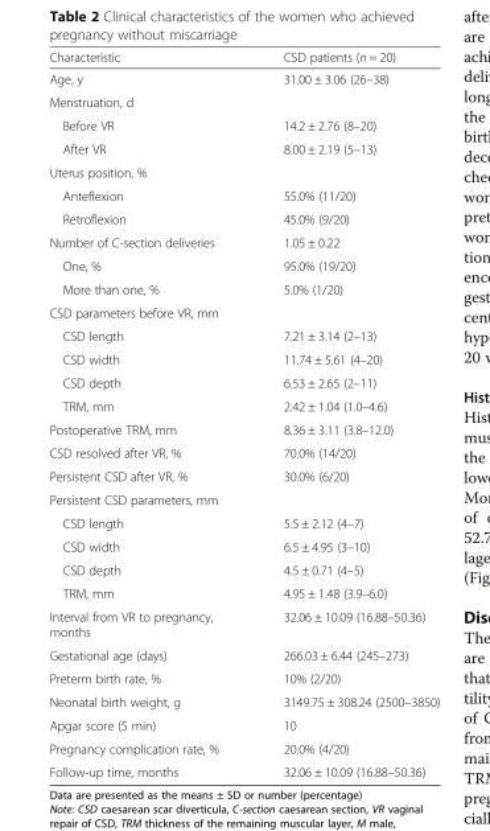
<table><thead><tr><td>Characteristic</td><td>CSD patients (n = 20)</td></tr></thead><tbody><tr><td>Age, y</td><td>31.00 ± 3.06 (26–38)</td></tr><tr><td colspan="2">Menstruation, d</td></tr><tr><td>Before VR</td><td>14.2 ± 2.76 (8–20)</td></tr><tr><td>After VR</td><td>8.00 ± 2.19 (5–13)</td></tr><tr><td colspan="2">Uterus position, %</td></tr><tr><td>Anteflexion</td><td>55.0% (11/20)</td></tr><tr><td>Retroflexion</td><td>45.0% (9/20)</td></tr><tr><td>Number of C-section deliveries</td><td>1.05 ± 0.22</td></tr><tr><td>One, %</td><td>95.0% (19/20)</td></tr><tr><td>More than one, %</td><td>5.0% (1/20)</td></tr><tr><td colspan="2">CSD parameters before VR, mm</td></tr><tr><td>CSD length</td><td>7.21 ± 3.14 (2–13)</td></tr><tr><td>CSD width</td><td>11.74 ± 5.61 (4–20)</td></tr><tr><td>CSD depth</td><td>6.53 ± 2.65 (2–11)</td></tr><tr><td>TRM, mm</td><td>2.42 ± 1.04 (1.0–4.6)</td></tr><tr><td>Postoperative TRM, mm</td><td>8.36 ± 3.11 (3.8–12.0)</td></tr><tr><td>CSD resolved after VR, %</td><td>70.0% (14/20)</td></tr><tr><td>Persistent CSD after VR, %</td><td>30.0% (6/20)</td></tr><tr><td colspan="2">Persistent CSD parameters, mm</td></tr><tr><td>CSD length</td><td>5.5 ± 2.12 (4–7)</td></tr><tr><td>CSD width</td><td>6.5 ± 4.95 (3–10)</td></tr><tr><td>CSD depth</td><td>4.5 ± 0.71 (4–5)</td></tr><tr><td>TRM, mm</td><td>4.95 ± 1.48 (3.9–6.0)</td></tr><tr><td>Interval from VR to pregnancy, months</td><td>32.06 ± 10.09 (16.88–50.36)</td></tr><tr><td>Gestational age (days)</td><td>266.03 ± 6.44 (245–273)</td></tr><tr><td>Preterm birth rate, %</td><td>10% (2/20)</td></tr><tr><td>Neonatal birth weight, g</td><td>3149.75 ± 308.24 (2500–3850)</td></tr><tr><td>Apgar score (5 min)</td><td>10</td></tr><tr><td>Pregnancy complication rate, %</td><td>20.0% (4/20)</td></tr><tr><td>Follow-up time, months</td><td>32.06 ± 10.09 (16.88–50.36)</td></tr></tbody></table>